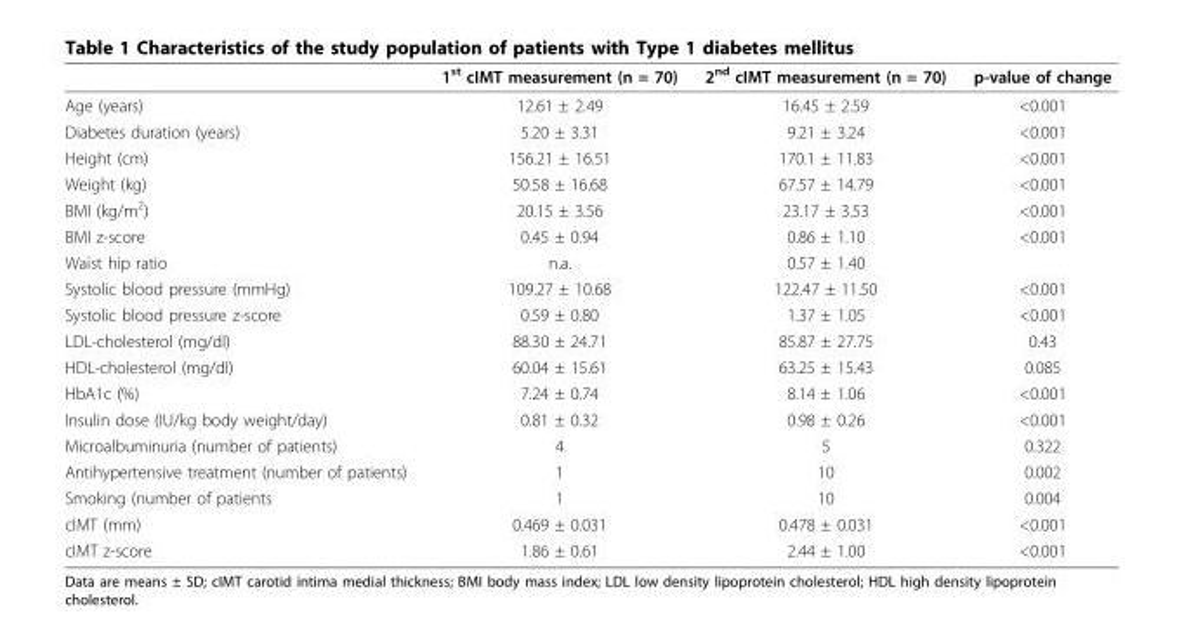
<table><thead><tr><td></td><td>1<sup>st</sup> cIMT measurement (n = 70)</td><td>2<sup>nd</sup> cIMT measurement (n = 70)</td><td>p-value of change</td></tr></thead><tbody><tr><td>Age (years)</td><td>12.61 ± 2.49</td><td>16.45 ± 2.59</td><td>&lt;0.001</td></tr><tr><td>Diabetes duration (years)</td><td>5.20 ± 3.31</td><td>9.21 ± 3.24</td><td>&lt;0.001</td></tr><tr><td>Height (cm)</td><td>156.21 ± 16.51</td><td>170.1 ± 11.83</td><td>&lt;0.001</td></tr><tr><td>Weight (kg)</td><td>50.58 ± 16.68</td><td>67.57 ± 14.79</td><td>&lt;0.001</td></tr><tr><td>BMI (kg/m<sup>2</sup>)</td><td>20.15 ± 3.56</td><td>23.17 ± 3.53</td><td>&lt;0.001</td></tr><tr><td>BMI z-score</td><td>0.45 ± 0.94</td><td>0.86 ± 1.10</td><td>&lt;0.001</td></tr><tr><td>Waist hip ratio</td><td>n.a.</td><td>0.57 ± 1.40</td><td></td></tr><tr><td>Systolic blood pressure (mmHg)</td><td>109.27 ± 10.68</td><td>122.47 ± 11.50</td><td>&lt;0.001</td></tr><tr><td>Systolic blood pressure z-score</td><td>0.59 ± 0.80</td><td>1.37 ± 1.05</td><td>&lt;0.001</td></tr><tr><td>LDL-cholesterol (mg/dl)</td><td>88.30 ± 24.71</td><td>85.87 ± 27.75</td><td>0.43</td></tr><tr><td>HDL-cholesterol (mg/dl)</td><td>60.04 ± 15.61</td><td>63.25 ± 15.43</td><td>0.085</td></tr><tr><td>HbA1c (%)</td><td>7.24 ± 0.74</td><td>8.14 ± 1.06</td><td>&lt;0.001</td></tr><tr><td>Insulin dose (IU/kg body weight/day)</td><td>0.81 ± 0.32</td><td>0.98 ± 0.26</td><td>&lt;0.001</td></tr><tr><td>Microalbuminuria (number of patients)</td><td>4</td><td>5</td><td>0.322</td></tr><tr><td>Antihypertensive treatment (number of patients)</td><td>1</td><td>10</td><td>0.002</td></tr><tr><td>Smoking (number of patients</td><td>1</td><td>10</td><td>0.004</td></tr><tr><td>cIMT (mm)</td><td>0.469 ± 0.031</td><td>0.478 ± 0.031</td><td>&lt;0.001</td></tr><tr><td>cIMT z-score</td><td>1.86 ± 0.61</td><td>2.44 ± 1.00</td><td>&lt;0.001</td></tr></tbody></table>